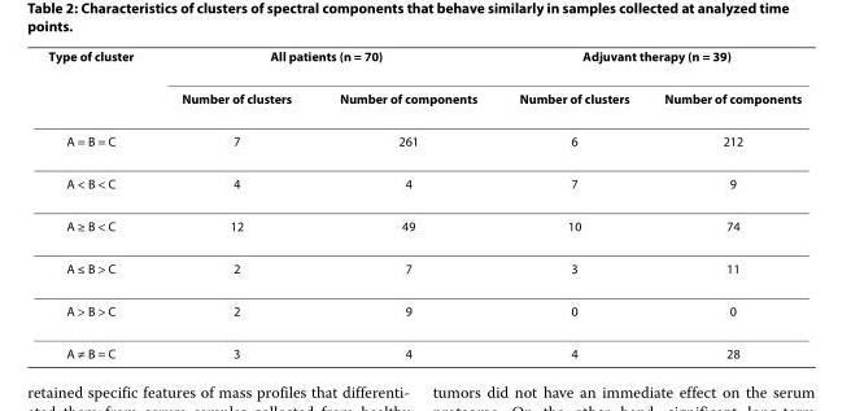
<table><thead><tr><td rowspan="2">Type of cluster</td><td colspan="2">All patients (n = 70)</td><td colspan="2">Adjuvant therapy (n = 39)</td></tr><tr><td>Number of clusters</td><td>Number of components</td><td>Number of clusters</td><td>Number of components</td></tr></thead><tbody><tr><td>A = B = C</td><td>7</td><td>261</td><td>6</td><td>212</td></tr><tr><td>A &lt; B &lt; C</td><td>4</td><td>4</td><td>7</td><td>9</td></tr><tr><td>A ≥ B &lt; C</td><td>12</td><td>49</td><td>10</td><td>74</td></tr><tr><td>A ≤ B &gt; C</td><td>2</td><td>7</td><td>3</td><td>11</td></tr><tr><td>A &gt; B &gt; C</td><td>2</td><td>9</td><td>0</td><td>0</td></tr><tr><td>A ≠ B = C</td><td>3</td><td>4</td><td>4</td><td>28</td></tr></tbody></table>